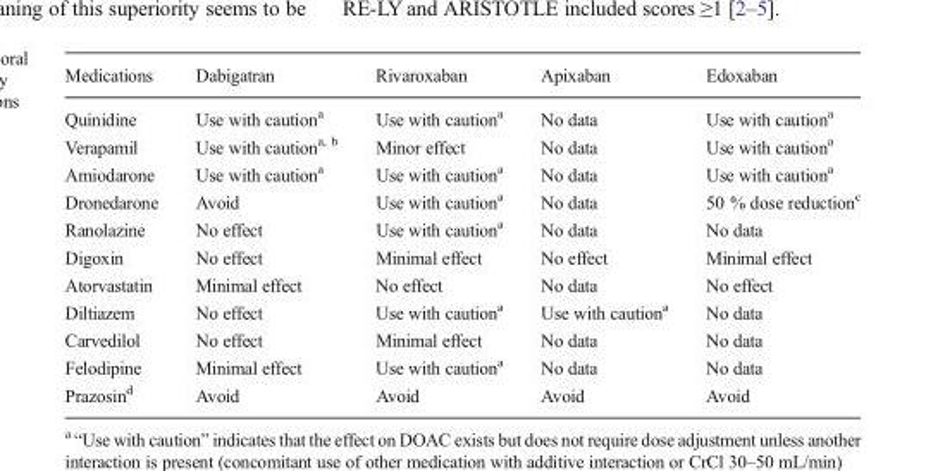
<table><thead><tr><td>Medications</td><td>Dabigatran</td><td>Rivaroxaban</td><td>Apixaban</td><td>Edoxaban</td></tr></thead><tbody><tr><td>Quinidine</td><td>Use with caution<sup>a</sup></td><td>Use with caution<sup>a</sup></td><td>No data</td><td>Use with caution<sup>a</sup></td></tr><tr><td>Verapamil</td><td>Use with caution<sup>a, b</sup></td><td>Minor effect</td><td>No data</td><td>Use with caution<sup>a</sup></td></tr><tr><td>Amiodarone</td><td>Use with caution<sup>a</sup></td><td>Use with caution<sup>a</sup></td><td>No data</td><td>Use with caution<sup>a</sup></td></tr><tr><td>Dronedarone</td><td>Avoid</td><td>Use with caution<sup>a</sup></td><td>No data</td><td>50 % dose reduction<sup>c</sup></td></tr><tr><td>Ranolazine</td><td>No effect</td><td>Use with caution<sup>a</sup></td><td>No data</td><td>No data</td></tr><tr><td>Digoxin</td><td>No effect</td><td>Minimal effect</td><td>No effect</td><td>Minimal effect</td></tr><tr><td>Atorvastatin</td><td>Minimal effect</td><td>No effect</td><td>No data</td><td>No effect</td></tr><tr><td>Diltiazem</td><td>No effect</td><td>Use with caution<sup>a</sup></td><td>Use with caution<sup>a</sup></td><td>No data</td></tr><tr><td>Carvedilol</td><td>No effect</td><td>Minimal effect</td><td>No data</td><td>No data</td></tr><tr><td>Felodipine</td><td>Minimal effect</td><td>Use with caution<sup>a</sup></td><td>No data</td><td>No data</td></tr><tr><td>Prazosin<sup>d</sup></td><td>Avoid</td><td>Avoid</td><td>Avoid</td><td>Avoid</td></tr></tbody></table>